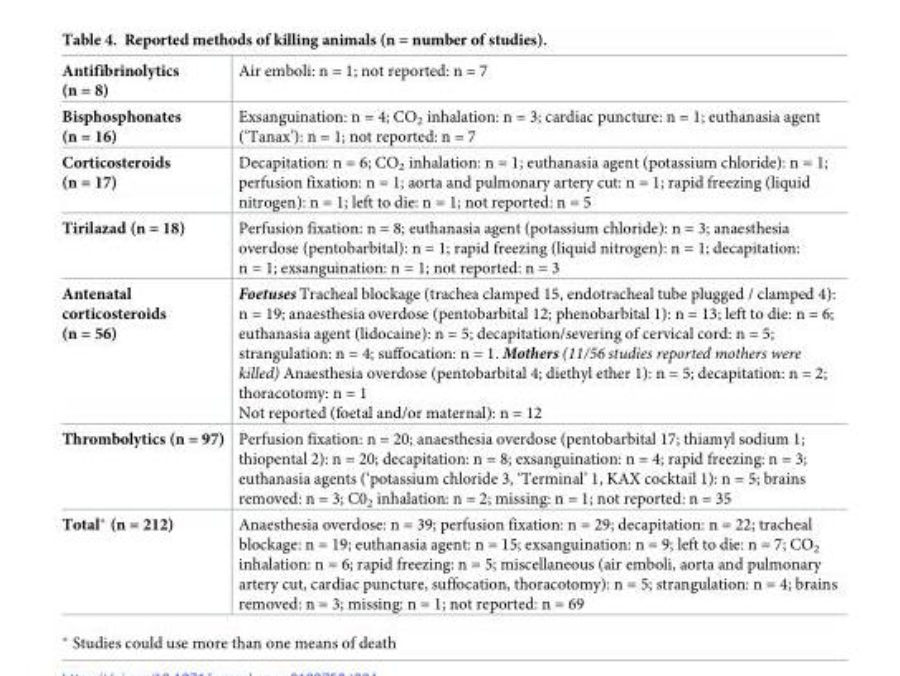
<table><tbody><tr><td>Antifibrinolytics (n = 8)</td><td>Air emboli: n = 1; not reported: n = 7</td></tr><tr><td>Bisphosphonates (n = 16)</td><td>Exsanguination: n = 4; CO<sub>2</sub> inhalation: n = 3; cardiac puncture: n = 1; euthanasia agent (‘Tanax’): n = 1; not reported: n = 7</td></tr><tr><td>Corticosteroids (n = 17)</td><td>Decapitation: n = 6; CO<sub>2</sub> inhalation: n = 1; euthanasia agent (potassium chloride): n = 1; perfusion fixation: n = 1; aorta and pulmonary artery cut: n = 1; rapid freezing (liquid nitrogen): n = 1; left to die: n = 1; not reported: n = 5</td></tr><tr><td>Tirilazad (n = 18)</td><td>Perfusion fixation: n = 8; euthanasia agent (potassium chloride): n = 3; anaesthesia overdose (pentobarbital): n = 1; rapid freezing (liquid nitrogen): n = 1; decapitation: n = 1; exsanguination: n = 1; not reported: n = 3</td></tr><tr><td>Antenatal corticosteroids (n = 56)</td><td>Foetuses Tracheal blockage (trachea clamped 15, endotracheal tube plugged / clamped 4): n = 19; anaesthesia overdose (pentobarbital 12; phenobarbital 1): n = 13; left to die: n = 6; euthanasia agent (lidocaine): n = 5; decapitation/severing of cervical cord: n = 5; strangulation: n = 4; suffocation: n = 1. Mothers (11/56 studies reported mothers were killed) Anaesthesia overdose (pentobarbital 4; diethyl ether 1): n = 5; decapitation: n = 2; thoracotomy: n = 1 Not reported (foetal and/or maternal): n = 12</td></tr><tr><td>Thrombolytics (n = 97)</td><td>Perfusion fixation: n = 20; anaesthesia overdose (pentobarbital 17; thiamyl sodium 1; thiopental 2): n = 20; decapitation: n = 8; exsanguination: n = 4; rapid freezing: n = 3; euthanasia agents (‘potassium chloride 3, ‘Terminal’ 1, KAX cocktail 1): n = 5; brains removed: n = 3; C0<sub>2</sub> inhalation: n = 2; missing: n = 1; not reported: n = 35</td></tr><tr><td>Total* (n = 212)</td><td>Anaesthesia overdose: n = 39; perfusion fixation: n = 29; decapitation: n = 22; tracheal blockage: n = 19; euthanasia agent: n = 15; exsanguination: n = 9; left to die: n = 7; CO<sub>2</sub> inhalation: n = 6; rapid freezing: n = 5; miscellaneous (air emboli, aorta and pulmonary artery cut, cardiac puncture, suffocation, thoracotomy): n = 5; strangulation: n = 4; brains removed: n = 3; missing: n = 1; not reported: n = 69</td></tr></tbody></table>